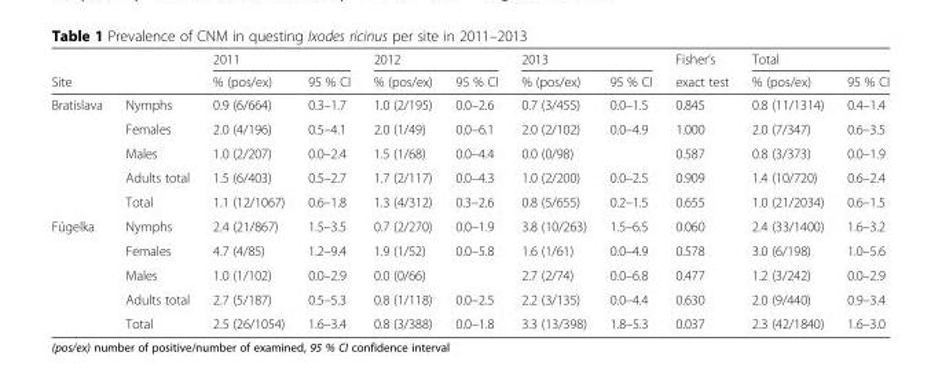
<table><thead><tr><td rowspan="2">Site</td><td rowspan="2"></td><td colspan="2">2011</td><td colspan="2">2012</td><td colspan="2">2013</td><td rowspan="2">Fisher’s exact test</td><td colspan="2">Total</td></tr><tr><td>% (pos/ex)</td><td>95 % CI</td><td>% (pos/ex)</td><td>95 % CI</td><td>% (pos/ex)</td><td>95 % CI</td><td>% (pos/ex)</td><td>95 % CI</td></tr></thead><tbody><tr><td rowspan="5">Bratislava</td><td>Nymphs</td><td>0.9 (6/664)</td><td>0.3–1.7</td><td>1.0 (2/195)</td><td>0.0–2.6</td><td>0.7 (3/455)</td><td>0.0–1.5</td><td>0.845</td><td>0.8 (11/1314)</td><td>0.4–1.4</td></tr><tr><td>Females</td><td>2.0 (4/196)</td><td>0.5–4.1</td><td>2.0 (1/49)</td><td>0.0–6.1</td><td>2.0 (2/102)</td><td>0.0–4.9</td><td>1.000</td><td>2.0 (7/347)</td><td>0.6–3.5</td></tr><tr><td>Males</td><td>1.0 (2/207)</td><td>0.0–2.4</td><td>1.5 (1/68)</td><td>0.0–4.4</td><td>0.0 (0/98)</td><td></td><td>0.587</td><td>0.8 (3/373)</td><td>0.0–1.9</td></tr><tr><td>Adults total</td><td>1.5 (6/403)</td><td>0.5–2.7</td><td>1.7 (2/117)</td><td>0.0–4.3</td><td>1.0 (2/200)</td><td>0.0–2.5</td><td>0.909</td><td>1.4 (10/720)</td><td>0.6–2.4</td></tr><tr><td>Total</td><td>1.1 (12/1067)</td><td>0.6–1.8</td><td>1.3 (4/312)</td><td>0.3–2.6</td><td>0.8 (5/655)</td><td>0.2–1.5</td><td>0.655</td><td>1.0 (21/2034)</td><td>0.6–1.5</td></tr><tr><td rowspan="5">Fúgelka</td><td>Nymphs</td><td>2.4 (21/867)</td><td>1.5–3.5</td><td>0.7 (2/270)</td><td>0.0–1.9</td><td>3.8 (10/263)</td><td>1.5–6.5</td><td>0.060</td><td>2.4 (33/1400)</td><td>1.6–3.2</td></tr><tr><td>Females</td><td>4.7 (4/85)</td><td>1.2–9.4</td><td>1.9 (1/52)</td><td>0.0–5.8</td><td>1.6 (1/61)</td><td>0.0–4.9</td><td>0.578</td><td>3.0 (6/198)</td><td>1.0–5.6</td></tr><tr><td>Males</td><td>1.0 (1/102)</td><td>0.0–2.9</td><td>0.0 (0/66)</td><td></td><td>2.7 (2/74)</td><td>0.0–6.8</td><td>0.477</td><td>1.2 (3/242)</td><td>0.0–2.9</td></tr><tr><td>Adults total</td><td>2.7 (5/187)</td><td>0.5–5.3</td><td>0.8 (1/118)</td><td>0.0–2.5</td><td>2.2 (3/135)</td><td>0.0–4.4</td><td>0.630</td><td>2.0 (9/440)</td><td>0.9–3.4</td></tr><tr><td>Total</td><td>2.5 (26/1054)</td><td>1.6–3.4</td><td>0.8 (3/388)</td><td>0.0–1.8</td><td>3.3 (13/398)</td><td>1.8–5.3</td><td>0.037</td><td>2.3 (42/1840)</td><td>1.6–3.0</td></tr></tbody></table>